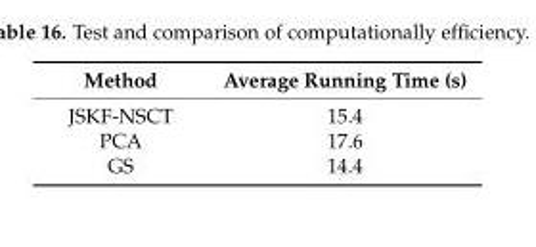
<table><thead><tr><td>Method</td><td>Average Running Time (s)</td></tr></thead><tbody><tr><td>JSKF-NSCT</td><td>15.4</td></tr><tr><td>PCA</td><td>17.6</td></tr><tr><td>GS</td><td>14.4</td></tr></tbody></table>